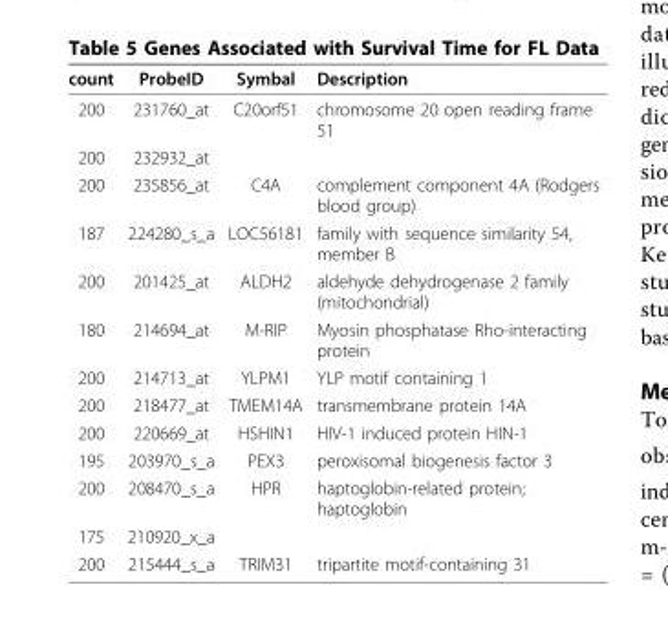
<table><thead><tr><td>count</td><td>ProbeID</td><td>Symbal</td><td>Description</td></tr></thead><tbody><tr><td>200</td><td>231760_at</td><td>C20orf51</td><td>chromosome 20 open reading frame 51</td></tr><tr><td>200</td><td>232932_at</td><td></td><td></td></tr><tr><td>200</td><td>235856_at</td><td>C4A</td><td>complement component 4A (Rodgers blood group)</td></tr><tr><td>187</td><td>224280_s_a</td><td>LOC56181</td><td>family with sequence similarity 54, member B</td></tr><tr><td>200</td><td>201425_at</td><td>ALDH2</td><td>aldehyde dehydrogenase 2 family (mitochondrial)</td></tr><tr><td>180</td><td>214694_at</td><td>M-RIP</td><td>Myosin phosphatase Rho-interacting protein</td></tr><tr><td>200</td><td>214713_at</td><td>YLPM1</td><td>YLP motif containing 1</td></tr><tr><td>200</td><td>218477_at</td><td>TMEM14A</td><td>transmembrane protein 14A</td></tr><tr><td>200</td><td>220669_at</td><td>HSHIN1</td><td>HIV-1 induced protein HIN-1</td></tr><tr><td>195</td><td>203970_s_a</td><td>PEX3</td><td>peroxisomal biogenesis factor 3</td></tr><tr><td>200</td><td>208470_s_a</td><td>HPR</td><td>haptoglobin-related protein; haptoglobin</td></tr><tr><td>175</td><td>210920_x_a</td><td></td><td></td></tr><tr><td>200</td><td>215444_s_a</td><td>TRIM31</td><td>tripartite motif-containing 31</td></tr></tbody></table>